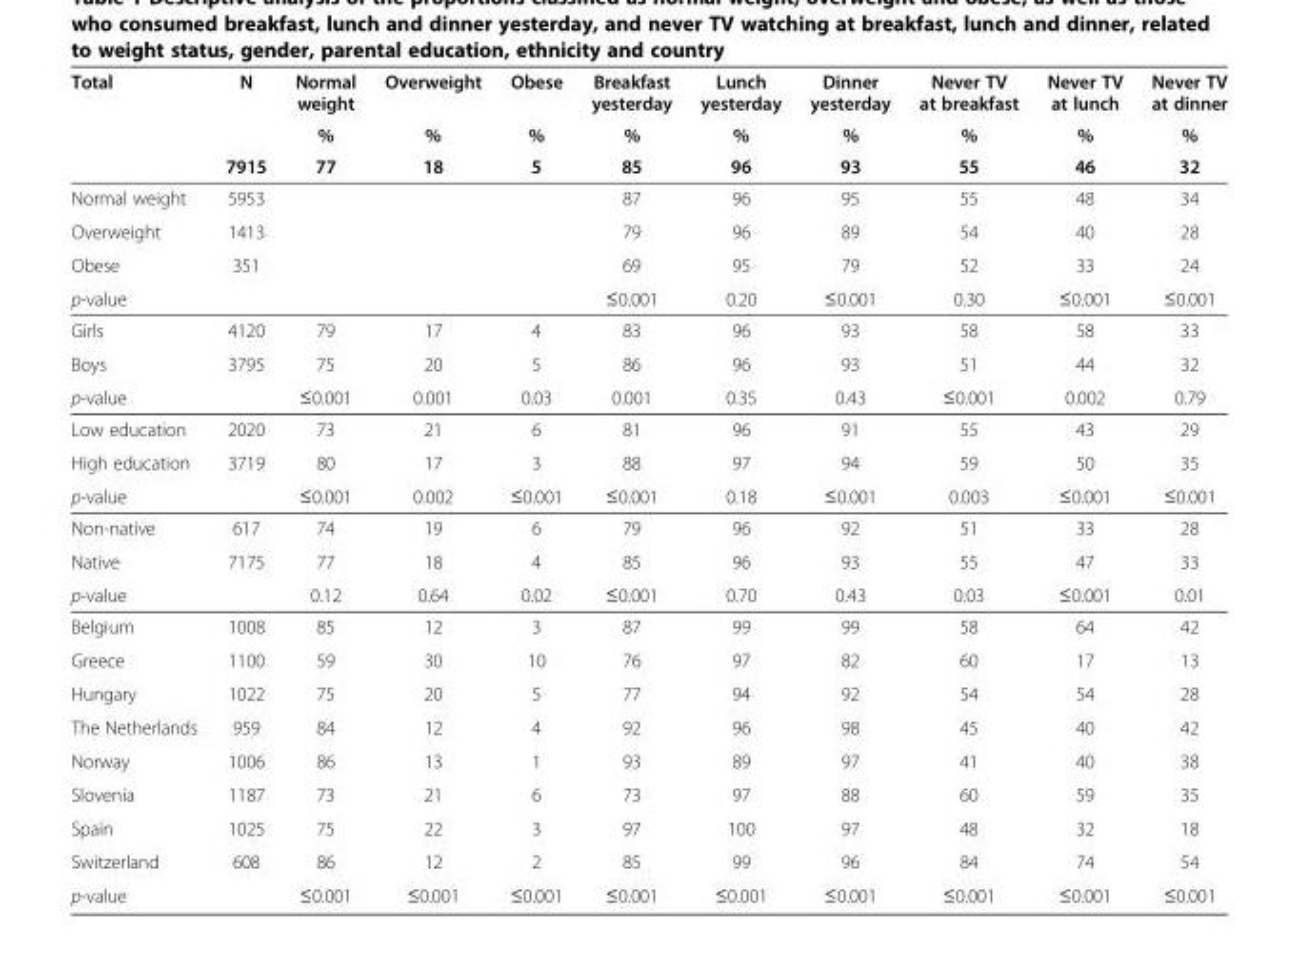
<table><thead><tr><td rowspan="3">Total</td><td rowspan="3">N 7915</td><td rowspan="3">Normal weight % 77</td><td rowspan="3">Overweight % 18</td><td rowspan="3">Obese % 5</td><td rowspan="3">Breakfast yesterday % 85</td><td rowspan="3">Lunch yesterday % 96</td><td rowspan="3">Dinner yesterday % 93</td><td rowspan="3">Never TV at breakfast % 55</td><td rowspan="3">Never TV at lunch % 46</td><td rowspan="3">Never TV at dinner % 32</td></tr><tr></tr><tr></tr></thead><tbody><tr><td>Normal weight</td><td>5953</td><td></td><td></td><td></td><td>87</td><td>96</td><td>95</td><td>55</td><td>48</td><td>34</td></tr><tr><td>Overweight</td><td>1413</td><td></td><td></td><td></td><td>79</td><td>96</td><td>89</td><td>54</td><td>40</td><td>28</td></tr><tr><td>Obese</td><td>351</td><td></td><td></td><td></td><td>69</td><td>95</td><td>79</td><td>52</td><td>33</td><td>24</td></tr><tr><td>p-value</td><td></td><td></td><td></td><td></td><td>≤0.001</td><td>0.20</td><td>≤0.001</td><td>0.30</td><td>≤0.001</td><td>≤0.001</td></tr><tr><td>Girls</td><td>4120</td><td>79</td><td>17</td><td>4</td><td>83</td><td>96</td><td>93</td><td>58</td><td>58</td><td>33</td></tr><tr><td>Boys</td><td>3795</td><td>75</td><td>20</td><td>5</td><td>86</td><td>96</td><td>93</td><td>51</td><td>44</td><td>32</td></tr><tr><td>p-value</td><td></td><td>≤0.001</td><td>0.001</td><td>0.03</td><td>0.001</td><td>0.35</td><td>0.43</td><td>≤0.001</td><td>0.002</td><td>0.79</td></tr><tr><td>Low education</td><td>2020</td><td>73</td><td>21</td><td>6</td><td>81</td><td>96</td><td>91</td><td>55</td><td>43</td><td>29</td></tr><tr><td>High education</td><td>3719</td><td>80</td><td>17</td><td>3</td><td>88</td><td>97</td><td>94</td><td>59</td><td>50</td><td>35</td></tr><tr><td>p-value</td><td></td><td>≤0.001</td><td>0.002</td><td>≤0.001</td><td>≤0.001</td><td>0.18</td><td>≤0.001</td><td>0.003</td><td>≤0.001</td><td>≤0.001</td></tr><tr><td>Non-native</td><td>617</td><td>74</td><td>19</td><td>6</td><td>79</td><td>96</td><td>92</td><td>51</td><td>33</td><td>28</td></tr><tr><td>Native</td><td>7175</td><td>77</td><td>18</td><td>4</td><td>85</td><td>96</td><td>93</td><td>55</td><td>47</td><td>33</td></tr><tr><td>p-value</td><td></td><td>0.12</td><td>0.64</td><td>0.02</td><td>≤0.001</td><td>0.70</td><td>0.43</td><td>0.03</td><td>≤0.001</td><td>0.01</td></tr><tr><td>Belgium</td><td>1008</td><td>85</td><td>12</td><td>3</td><td>87</td><td>99</td><td>99</td><td>58</td><td>64</td><td>42</td></tr><tr><td>Greece</td><td>1100</td><td>59</td><td>30</td><td>10</td><td>76</td><td>97</td><td>82</td><td>60</td><td>17</td><td>13</td></tr><tr><td>Hungary</td><td>1022</td><td>75</td><td>20</td><td>5</td><td>77</td><td>94</td><td>92</td><td>54</td><td>54</td><td>28</td></tr><tr><td>The Netherlands</td><td>959</td><td>84</td><td>12</td><td>4</td><td>92</td><td>96</td><td>98</td><td>45</td><td>40</td><td>42</td></tr><tr><td>Norway</td><td>1006</td><td>86</td><td>13</td><td>1</td><td>93</td><td>89</td><td>97</td><td>41</td><td>40</td><td>38</td></tr><tr><td>Slovenia</td><td>1187</td><td>73</td><td>21</td><td>6</td><td>73</td><td>97</td><td>88</td><td>60</td><td>59</td><td>35</td></tr><tr><td>Spain</td><td>1025</td><td>75</td><td>22</td><td>3</td><td>97</td><td>100</td><td>97</td><td>48</td><td>32</td><td>18</td></tr><tr><td>Switzerland</td><td>608</td><td>86</td><td>12</td><td>2</td><td>85</td><td>99</td><td>96</td><td>84</td><td>74</td><td>54</td></tr><tr><td>p-value</td><td></td><td>≤0.001</td><td>≤0.001</td><td>≤0.001</td><td>≤0.001</td><td>≤0.001</td><td>≤0.001</td><td>≤0.001</td><td>≤0.001</td><td>≤0.001</td></tr></tbody></table>